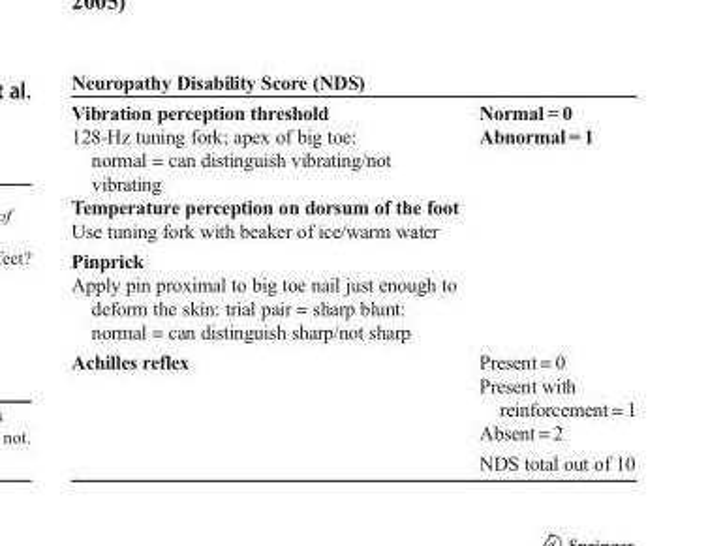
<table><tbody><tr><td colspan="2">Neuropathy Disability Score (NDS)</td></tr><tr><td>Vibration perception threshold 128-Hz tuning fork; apex of big toe: normal = can distinguish vibrating/not vibrating</td><td rowspan="3">Normal = 0 Abnormal = 1</td></tr><tr><td>Temperature perception on dorsum of the foot Use tuning fork with beaker of ice/warm water</td></tr><tr><td>Pinprick Apply pin proximal to big toe nail just enough to deform the skin: trial pair = sharp blunt: normal = can distinguish sharp/not sharp</td></tr><tr><td rowspan="2">Achilles reflex</td><td>Present = 0 Present with reinforcement = 1 Absent = 2</td></tr><tr><td>NDS total out of 10</td></tr></tbody></table>